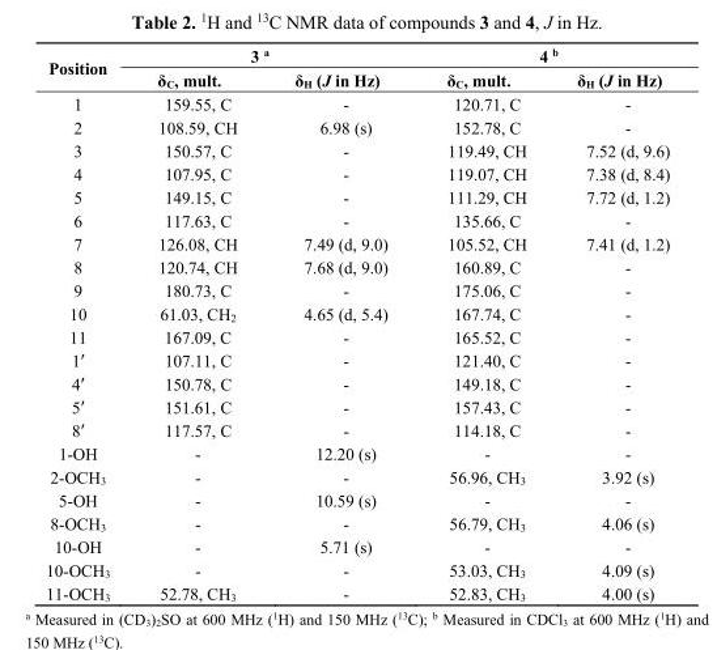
<table><thead><tr><td rowspan="2">Position</td><td colspan="2">3 <sup>a</sup></td><td colspan="2">4 <sup>b</sup></td></tr><tr><td>δ<sub>C</sub>, mult.</td><td>δ<sub>H</sub> (J in Hz)</td><td>δ<sub>C</sub>, mult.</td><td>δ<sub>H</sub> (J in Hz)</td></tr></thead><tbody><tr><td>1</td><td>159.55, C</td><td>-</td><td>120.71, C</td><td>-</td></tr><tr><td>2</td><td>108.59, CH</td><td>6.98 (s)</td><td>152.78, C</td><td>-</td></tr><tr><td>3</td><td>150.57, C</td><td>-</td><td>119.49, CH</td><td>7.52 (d, 9.6)</td></tr><tr><td>4</td><td>107.95, C</td><td>-</td><td>119.07, CH</td><td>7.38 (d, 8.4)</td></tr><tr><td>5</td><td>149.15, C</td><td>-</td><td>111.29, CH</td><td>7.72 (d, 1.2)</td></tr><tr><td>6</td><td>117.63, C</td><td>-</td><td>135.66, C</td><td>-</td></tr><tr><td>7</td><td>126.08, CH</td><td>7.49 (d, 9.0)</td><td>105.52, CH</td><td>7.41 (d, 1.2)</td></tr><tr><td>8</td><td>120.74, CH</td><td>7.68 (d, 9.0)</td><td>160.89, C</td><td>-</td></tr><tr><td>9</td><td>180.73, C</td><td>-</td><td>175.06, C</td><td>-</td></tr><tr><td>10</td><td>61.03, CH<sub>2</sub></td><td>4.65 (d, 5.4)</td><td>167.74, C</td><td>-</td></tr><tr><td>11</td><td>167.09, C</td><td>-</td><td>165.52, C</td><td>-</td></tr><tr><td>1′</td><td>107.11, C</td><td>-</td><td>121.40, C</td><td>-</td></tr><tr><td>4′</td><td>150.78, C</td><td>-</td><td>149.18, C</td><td>-</td></tr><tr><td>5′</td><td>151.61, C</td><td>-</td><td>157.43, C</td><td>-</td></tr><tr><td>8′</td><td>117.57, C</td><td>-</td><td>114.18, C</td><td>-</td></tr><tr><td>1-OH</td><td>-</td><td>12.20 (s)</td><td>-</td><td>-</td></tr><tr><td>2-OCH<sub>3</sub></td><td>-</td><td>-</td><td>56.96, CH<sub>3</sub></td><td>3.92 (s)</td></tr><tr><td>5-OH</td><td>-</td><td>10.59 (s)</td><td>-</td><td>-</td></tr><tr><td>8-OCH<sub>3</sub></td><td>-</td><td>-</td><td>56.79, CH<sub>3</sub></td><td>4.06 (s)</td></tr><tr><td>10-OH</td><td>-</td><td>5.71 (s)</td><td>-</td><td>-</td></tr><tr><td>10-OCH<sub>3</sub></td><td>-</td><td>-</td><td>53.03, CH<sub>3</sub></td><td>4.09 (s)</td></tr><tr><td>11-OCH<sub>3</sub></td><td>52.78, CH<sub>3</sub></td><td>-</td><td>52.83, CH<sub>3</sub></td><td>4.00 (s)</td></tr></tbody></table>